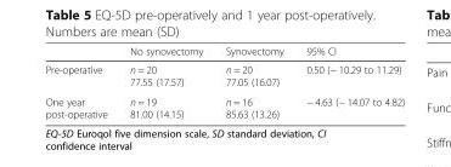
<table><thead><tr><td></td><td>No synovectomy</td><td>Synovectomy</td><td>95% CI</td></tr></thead><tbody><tr><td>Pre-operative</td><td>n = 20 77.55 (17.57)</td><td>n = 20 77.05 (16.07)</td><td>0.50 (− 10.29 to 11.29)</td></tr><tr><td>One year post-operative</td><td>n = 19 81.00 (14.15)</td><td>n = 16 85.63 (13.26)</td><td>− 4.63 (− 14.07 to 4.82)</td></tr></tbody></table>